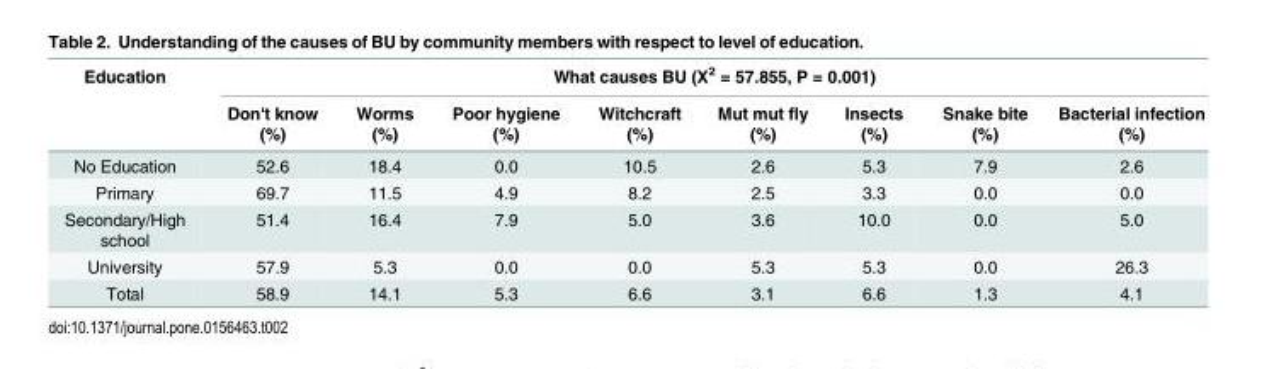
<table><thead><tr><td rowspan="2">Education</td><td colspan="8">What causes BU (X<sup>2</sup> = 57.855, P = 0.001)</td></tr><tr><td>Don&#x27;t know (%)</td><td>Worms (%)</td><td>Poor hygiene (%)</td><td>Witchcraft (%)</td><td>Mut mut fly (%)</td><td>Insects (%)</td><td>Snake bite (%)</td><td>Bacterial infection (%)</td></tr></thead><tbody><tr><td>No Education</td><td>52.6</td><td>18.4</td><td>0.0</td><td>10.5</td><td>2.6</td><td>5.3</td><td>7.9</td><td>2.6</td></tr><tr><td>Primary</td><td>69.7</td><td>11.5</td><td>4.9</td><td>8.2</td><td>2.5</td><td>3.3</td><td>0.0</td><td>0.0</td></tr><tr><td>Secondary/High school</td><td>51.4</td><td>16.4</td><td>7.9</td><td>5.0</td><td>3.6</td><td>10.0</td><td>0.0</td><td>5.0</td></tr><tr><td>University</td><td>57.9</td><td>5.3</td><td>0.0</td><td>0.0</td><td>5.3</td><td>5.3</td><td>0.0</td><td>26.3</td></tr><tr><td>Total</td><td>58.9</td><td>14.1</td><td>5.3</td><td>6.6</td><td>3.1</td><td>6.6</td><td>1.3</td><td>4.1</td></tr></tbody></table>